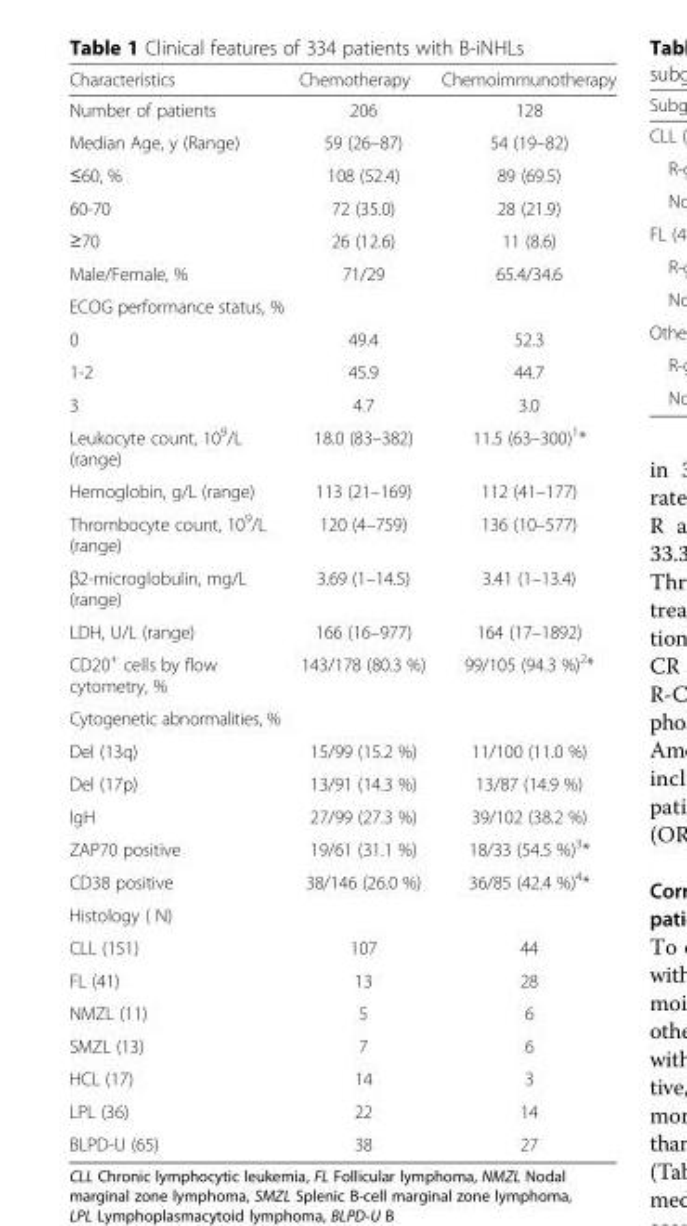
<table><thead><tr><td>Characteristics</td><td>Chemotherapy</td><td>Chemoimmunotherapy</td></tr></thead><tbody><tr><td>Number of patients</td><td>206</td><td>128</td></tr><tr><td>Median Age, y (Range)</td><td>59 (26–87)</td><td>54 (19–82)</td></tr><tr><td>≤60, %</td><td>108 (52.4)</td><td>89 (69.5)</td></tr><tr><td>60-70</td><td>72 (35.0)</td><td>28 (21.9)</td></tr><tr><td>≥70</td><td>26 (12.6)</td><td>11 (8.6)</td></tr><tr><td>Male/Female, %</td><td>71/29</td><td>65.4/34.6</td></tr><tr><td colspan="3">ECOG performance status, %</td></tr><tr><td>0</td><td>49.4</td><td>52.3</td></tr><tr><td>1-2</td><td>45.9</td><td>44.7</td></tr><tr><td>3</td><td>4.7</td><td>3.0</td></tr><tr><td>Leukocyte count, 10<sup>9</sup>/L (range)</td><td>18.0 (83–382)</td><td>11.5 (63–300)<sup>1</sup>*</td></tr><tr><td>Hemoglobin, g/L (range)</td><td>113 (21–169)</td><td>112 (41–177)</td></tr><tr><td>Thrombocyte count, 10<sup>9</sup>/L (range)</td><td>120 (4–759)</td><td>136 (10–577)</td></tr><tr><td>β2-microglobulin, mg/L (range)</td><td>3.69 (1–14.5)</td><td>3.41 (1–13.4)</td></tr><tr><td>LDH, U/L (range)</td><td>166 (16–977)</td><td>164 (17–1892)</td></tr><tr><td>CD20<sup>+</sup> cells by flow cytometry, %</td><td>143/178 (80.3 %)</td><td>99/105 (94.3 %)<sup>2</sup>*</td></tr><tr><td colspan="3">Cytogenetic abnormalities, %</td></tr><tr><td>Del (13q)</td><td>15/99 (15.2 %)</td><td>11/100 (11.0 %)</td></tr><tr><td>Del (17p)</td><td>13/91 (14.3 %)</td><td>13/87 (14.9 %)</td></tr><tr><td>IgH</td><td>27/99 (27.3 %)</td><td>39/102 (38.2 %)</td></tr><tr><td>ZAP70 positive</td><td>19/61 (31.1 %)</td><td>18/33 (54.5 %)<sup>3</sup>*</td></tr><tr><td>CD38 positive</td><td>38/146 (26.0 %)</td><td>36/85 (42.4 %)<sup>4</sup>*</td></tr><tr><td colspan="3">Histology ( N)</td></tr><tr><td>CLL (151)</td><td>107</td><td>44</td></tr><tr><td>FL (41)</td><td>13</td><td>28</td></tr><tr><td>NMZL (11)</td><td>5</td><td>6</td></tr><tr><td>SMZL (13)</td><td>7</td><td>6</td></tr><tr><td>HCL (17)</td><td>14</td><td>3</td></tr><tr><td>LPL (36)</td><td>22</td><td>14</td></tr><tr><td>BLPD-U (65)</td><td>38</td><td>27</td></tr></tbody></table>